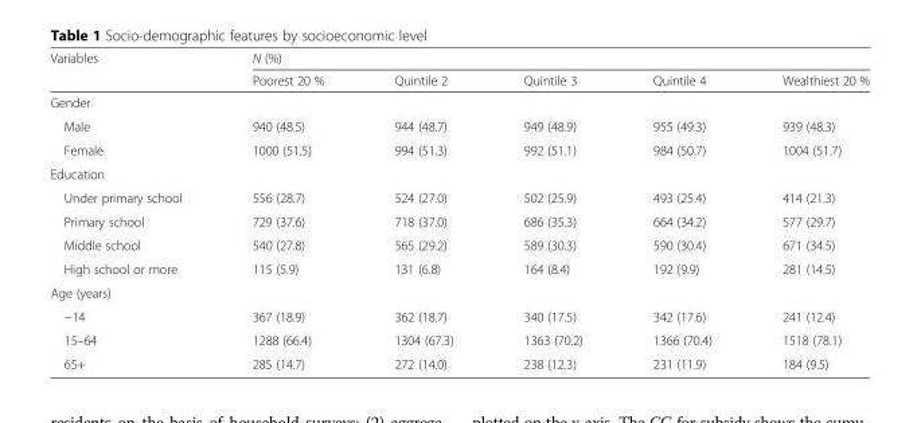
<table><thead><tr><td rowspan="2">Variables</td><td colspan="5">N (%)</td></tr><tr><td>Poorest 20 %</td><td>Quintile 2</td><td>Quintile 3</td><td>Quintile 4</td><td>Wealthiest 20 %</td></tr></thead><tbody><tr><td colspan="6">Gender</td></tr><tr><td>Male</td><td>940 (48.5)</td><td>944 (48.7)</td><td>949 (48.9)</td><td>955 (49.3)</td><td>939 (48.3)</td></tr><tr><td>Female</td><td>1000 (51.5)</td><td>994 (51.3)</td><td>992 (51.1)</td><td>984 (50.7)</td><td>1004 (51.7)</td></tr><tr><td colspan="6">Education</td></tr><tr><td>Under primary school</td><td>556 (28.7)</td><td>524 (27.0)</td><td>502 (25.9)</td><td>493 (25.4)</td><td>414 (21.3)</td></tr><tr><td>Primary school</td><td>729 (37.6)</td><td>718 (37.0)</td><td>686 (35.3)</td><td>664 (34.2)</td><td>577 (29.7)</td></tr><tr><td>Middle school</td><td>540 (27.8)</td><td>565 (29.2)</td><td>589 (30.3)</td><td>590 (30.4)</td><td>671 (34.5)</td></tr><tr><td>High school or more</td><td>115 (5.9)</td><td>131 (6.8)</td><td>164 (8.4)</td><td>192 (9.9)</td><td>281 (14.5)</td></tr><tr><td colspan="6">Age (years)</td></tr><tr><td>−14</td><td>367 (18.9)</td><td>362 (18.7)</td><td>340 (17.5)</td><td>342 (17.6)</td><td>241 (12.4)</td></tr><tr><td>15–64</td><td>1288 (66.4)</td><td>1304 (67.3)</td><td>1363 (70.2)</td><td>1366 (70.4)</td><td>1518 (78.1)</td></tr><tr><td>65+</td><td>285 (14.7)</td><td>272 (14.0)</td><td>238 (12.3)</td><td>231 (11.9)</td><td>184 (9.5)</td></tr></tbody></table>